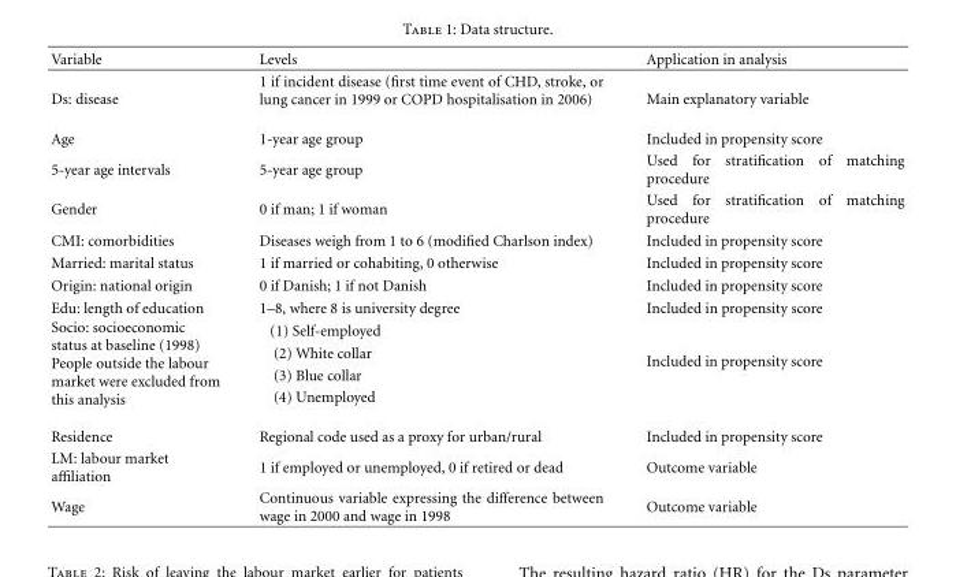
<table><thead><tr><td>Variable</td><td>Levels</td><td>Application in analysis</td></tr></thead><tbody><tr><td>Ds: disease</td><td>1 if incident disease (first time event of CHD, stroke, or lung cancer in 1999 or COPD hospitalisation in 2006)</td><td>Main explanatory variable</td></tr><tr><td>Age</td><td>1-year age group</td><td>Included in propensity score</td></tr><tr><td>5-year age intervals</td><td>5-year age group</td><td>Used for stratification of matching procedure</td></tr><tr><td>Gender</td><td>0 if man; 1 if woman</td><td>Used for stratification of matching procedure</td></tr><tr><td>CMI: comorbidities</td><td>Diseases weigh from 1 to 6 (modified Charlson index)</td><td>Included in propensity score</td></tr><tr><td>Married: marital status</td><td>1 if married or cohabiting, 0 otherwise</td><td>Included in propensity score</td></tr><tr><td>Origin: national origin</td><td>0 if Danish; 1 if not Danish</td><td>Included in propensity score</td></tr><tr><td>Edu: length of education</td><td>1–8, where 8 is university degree</td><td>Included in propensity score</td></tr><tr><td rowspan="4">Socio: socioeconomic status at baseline (1998) People outside the labour market were excluded from this analysis</td><td>(1) Self-employed</td><td rowspan="4">Included in propensity score</td></tr><tr><td>(2) White collar</td></tr><tr><td>(3) Blue collar</td></tr><tr><td>(4) Unemployed</td></tr><tr><td>Residence</td><td>Regional code used as a proxy for urban/rural</td><td>Included in propensity score</td></tr><tr><td>LM: labour market affiliation</td><td>1 if employed or unemployed, 0 if retired or dead</td><td>Outcome variable</td></tr><tr><td>Wage</td><td>Continuous variable expressing the difference between wage in 2000 and wage in 1998</td><td>Outcome variable</td></tr></tbody></table>